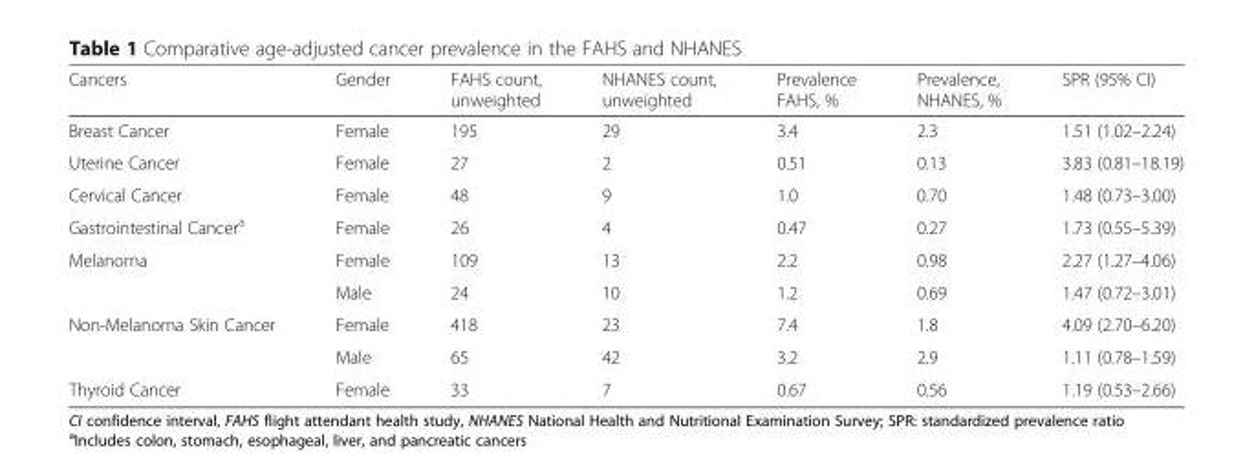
<table><thead><tr><td>Cancers</td><td>Gender</td><td>FAHS count, unweighted</td><td>NHANES count, unweighted</td><td>Prevalence FAHS, %</td><td>Prevalence, NHANES, %</td><td>SPR (95% CI)</td></tr></thead><tbody><tr><td>Breast Cancer</td><td>Female</td><td>195</td><td>29</td><td>3.4</td><td>2.3</td><td>1.51 (1.02–2.24)</td></tr><tr><td>Uterine Cancer</td><td>Female</td><td>27</td><td>2</td><td>0.51</td><td>0.13</td><td>3.83 (0.81–18.19)</td></tr><tr><td>Cervical Cancer</td><td>Female</td><td>48</td><td>9</td><td>1.0</td><td>0.70</td><td>1.48 (0.73–3.00)</td></tr><tr><td>Gastrointestinal Cancer<sup>a</sup></td><td>Female</td><td>26</td><td>4</td><td>0.47</td><td>0.27</td><td>1.73 (0.55–5.39)</td></tr><tr><td rowspan="2">Melanoma</td><td>Female</td><td>109</td><td>13</td><td>2.2</td><td>0.98</td><td>2.27 (1.27–4.06)</td></tr><tr><td>Male</td><td>24</td><td>10</td><td>1.2</td><td>0.69</td><td>1.47 (0.72–3.01)</td></tr><tr><td rowspan="2">Non-Melanoma Skin Cancer</td><td>Female</td><td>418</td><td>23</td><td>7.4</td><td>1.8</td><td>4.09 (2.70–6.20)</td></tr><tr><td>Male</td><td>65</td><td>42</td><td>3.2</td><td>2.9</td><td>1.11 (0.78–1.59)</td></tr><tr><td>Thyroid Cancer</td><td>Female</td><td>33</td><td>7</td><td>0.67</td><td>0.56</td><td>1.19 (0.53–2.66)</td></tr></tbody></table>